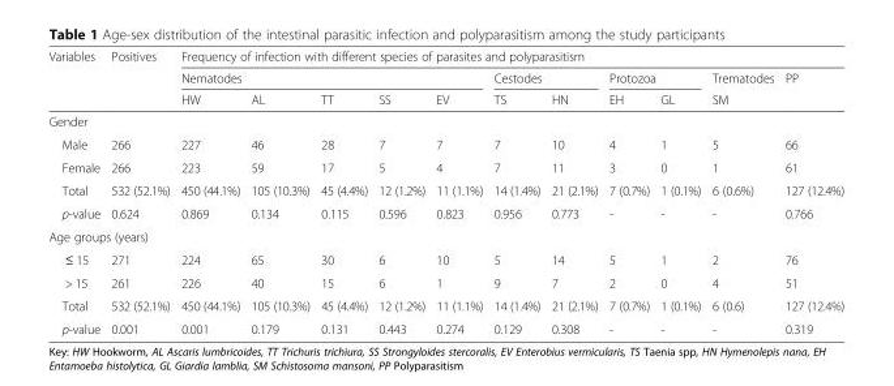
<table><thead><tr><td rowspan="3">Variables</td><td rowspan="3">Positives</td><td colspan="11">Frequency of infection with different species of parasites and polyparasitism</td></tr><tr><td colspan="5">Nematodes</td><td colspan="2">Cestodes</td><td colspan="2">Protozoa</td><td rowspan="2">Trematodes SM</td><td rowspan="2">PP</td></tr><tr><td>HW</td><td>AL</td><td>TT</td><td>SS</td><td>EV</td><td>TS</td><td>HN</td><td>EH</td><td>GL</td></tr></thead><tbody><tr><td colspan="13">Gender</td></tr><tr><td>Male</td><td>266</td><td>227</td><td>46</td><td>28</td><td>7</td><td>7</td><td>7</td><td>10</td><td>4</td><td>1</td><td>5</td><td>66</td></tr><tr><td>Female</td><td>266</td><td>223</td><td>59</td><td>17</td><td>5</td><td>4</td><td>7</td><td>11</td><td>3</td><td>0</td><td>1</td><td>61</td></tr><tr><td>Total</td><td>532 (52.1%)</td><td>450 (44.1%)</td><td>105 (10.3%)</td><td>45 (4.4%)</td><td>12 (1.2%)</td><td>11 (1.1%)</td><td>14 (1.4%)</td><td>21 (2.1%)</td><td>7 (0.7%)</td><td>1 (0.1%)</td><td>6 (0.6%)</td><td>127 (12.4%)</td></tr><tr><td>p-value</td><td>0.624</td><td>0.869</td><td>0.134</td><td>0.115</td><td>0.596</td><td>0.823</td><td>0.956</td><td>0.773</td><td>-</td><td>-</td><td>-</td><td>0.766</td></tr><tr><td colspan="13">Age groups (years)</td></tr><tr><td>≤ 15</td><td>271</td><td>224</td><td>65</td><td>30</td><td>6</td><td>10</td><td>5</td><td>14</td><td>5</td><td>1</td><td>2</td><td>76</td></tr><tr><td>&gt; 15</td><td>261</td><td>226</td><td>40</td><td>15</td><td>6</td><td>1</td><td>9</td><td>7</td><td>2</td><td>0</td><td>4</td><td>51</td></tr><tr><td>Total</td><td>532 (52.1%)</td><td>450 (44.1%)</td><td>105 (10.3%)</td><td>45 (4.4%)</td><td>12 (1.2%)</td><td>11 (1.1%)</td><td>14 (1.4%)</td><td>21 (2.1%)</td><td>7 (0.7%)</td><td>1 (0.1%)</td><td>6 (0.6)</td><td>127 (12.4%)</td></tr><tr><td>p-value</td><td>0.001</td><td>0.001</td><td>0.179</td><td>0.131</td><td>0.443</td><td>0.274</td><td>0.129</td><td>0.308</td><td>-</td><td>-</td><td>-</td><td>0.319</td></tr></tbody></table>